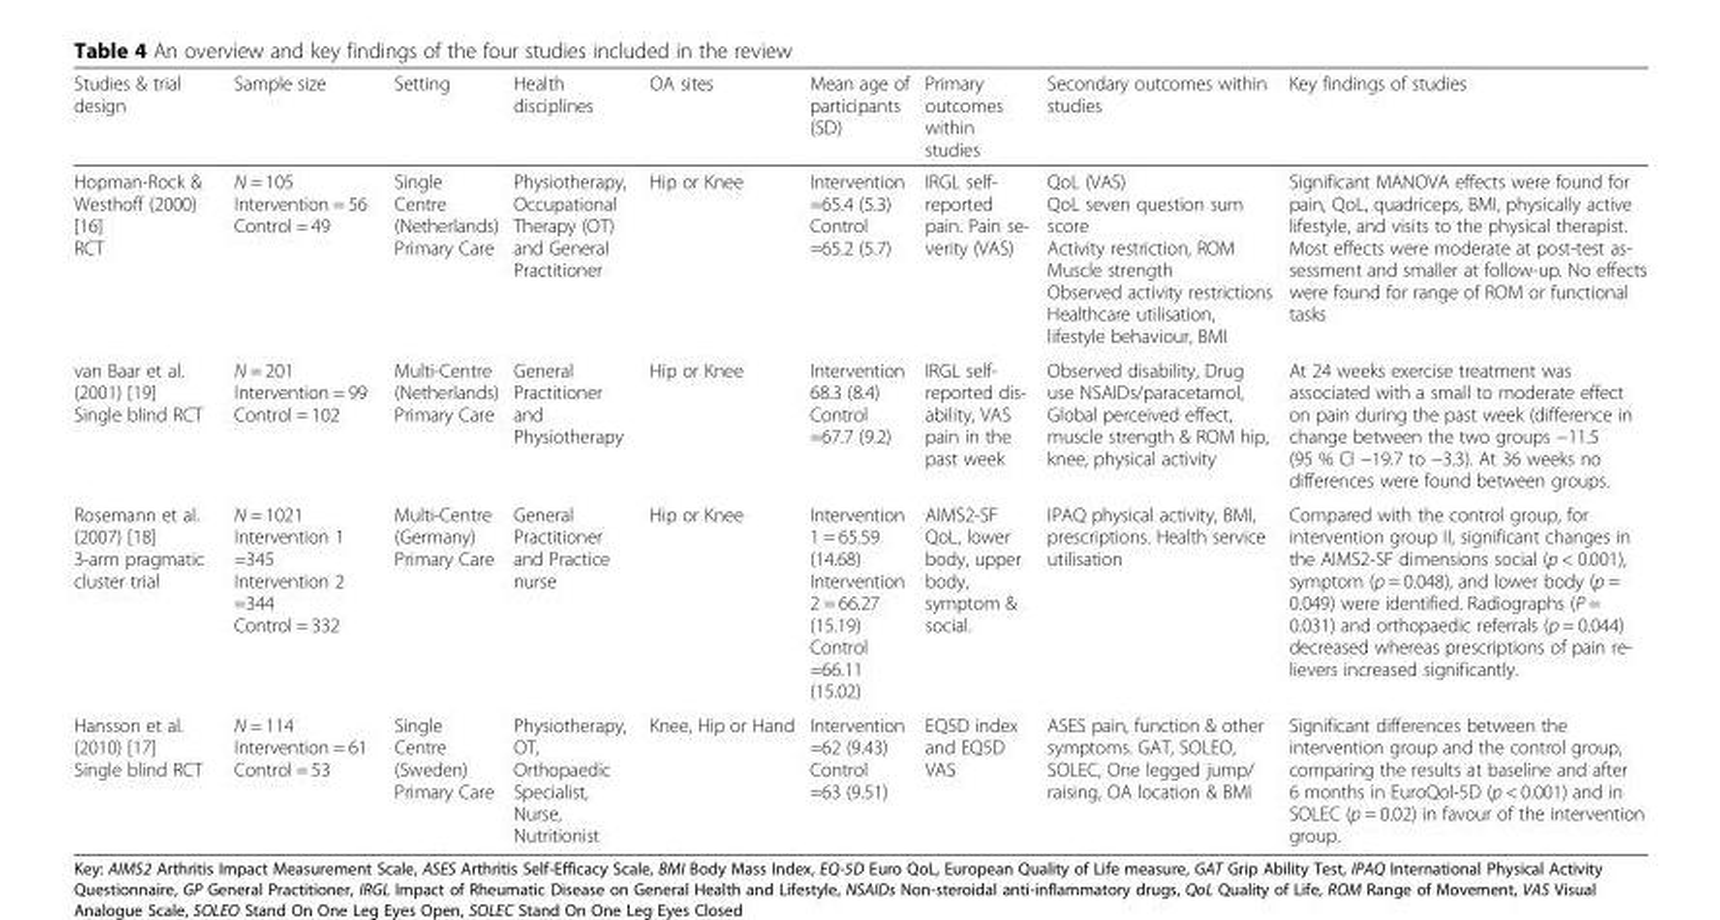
<table><thead><tr><td>Studies &amp; trial design</td><td>Sample size</td><td>Setting</td><td>Health disciplines</td><td>OA sites</td><td>Mean age of participants (SD)</td><td>Primary outcomes within studies</td><td>Secondary outcomes within studies</td><td>Key findings of studies</td></tr></thead><tbody><tr><td>Hopman-Rock &amp; Westhoff (2000) [16] RCT</td><td>N = 105 Intervention = 56 Control = 49</td><td>Single Centre (Netherlands) Primary Care</td><td>Physiotherapy, Occupational Therapy (OT) and General Practitioner</td><td>Hip or Knee</td><td>Intervention =65.4 (5.3) Control =65.2 (5.7)</td><td>IRGL self- reported pain. Pain se- verity (VAS)</td><td>QoL (VAS) QoL seven question sum score Activity restriction, ROM Muscle strength Observed activity restrictions Healthcare utilisation, lifestyle behaviour, BMI</td><td>Significant MANOVA effects were found for pain, QoL, quadriceps, BMI, physically active lifestyle, and visits to the physical therapist. Most effects were moderate at post-test as- sessment and smaller at follow-up. No effects were found for range of ROM or functional tasks</td></tr><tr><td>van Baar et al. (2001) [19] Single blind RCT</td><td>N = 201 Intervention = 99 Control = 102</td><td>Multi-Centre (Netherlands) Primary Care</td><td>General Practitioner and Physiotherapy</td><td>Hip or Knee</td><td>Intervention 68.3 (8.4) Control =67.7 (9.2)</td><td>IRGL self- reported dis- ability, VAS pain in the past week</td><td>Observed disability, Drug use NSAIDs/paracetamol, Global perceived effect, muscle strength &amp; ROM hip, knee, physical activity</td><td>At 24 weeks exercise treatment was associated with a small to moderate effect on pain during the past week (difference in change between the two groups −11.5 (95 % CI −19.7 to −3.3). At 36 weeks no differences were found between groups.</td></tr><tr><td>Rosemann et al. (2007) [18] 3-arm pragmatic cluster trial</td><td>N = 1021 Intervention 1 =345 Intervention 2 =344 Control = 332</td><td>Multi-Centre (Germany) Primary Care</td><td>General Practitioner and Practice nurse</td><td>Hip or Knee</td><td>Intervention 1 = 65.59 (14.68) Intervention 2 = 66.27 (15.19) Control =66.11 (15.02)</td><td>AIMS2-SF QoL, lower body, upper body, symptom &amp; social.</td><td>IPAQ physical activity, BMI, prescriptions. Health service utilisation</td><td>Compared with the control group, for intervention group II, significant changes in the AIMS2-SF dimensions social (p &lt; 0.001), symptom (p = 0.048), and lower body (p = 0.049) were identified. Radiographs (P = 0.031) and orthopaedic referrals (p = 0.044) decreased whereas prescriptions of pain re- lievers increased significantly.</td></tr><tr><td>Hansson et al. (2010) [17] Single blind RCT</td><td>N = 114 Intervention = 61 Control = 53</td><td>Single Centre (Sweden) Primary Care</td><td>Physiotherapy, OT, Orthopaedic Specialist, Nurse, Nutritionist</td><td>Knee, Hip or Hand</td><td>Intervention =62 (9.43) Control =63 (9.51)</td><td>EQ5D index and EQ5D VAS</td><td>ASES pain, function &amp; other symptoms. GAT, SOLEO, SOLEC, One legged jump/ raising, OA location &amp; BMI</td><td>Significant differences between the intervention group and the control group, comparing the results at baseline and after 6 months in EuroQol-5D (p &lt; 0.001) and in SOLEC (p = 0.02) in favour of the intervention group.</td></tr></tbody></table>